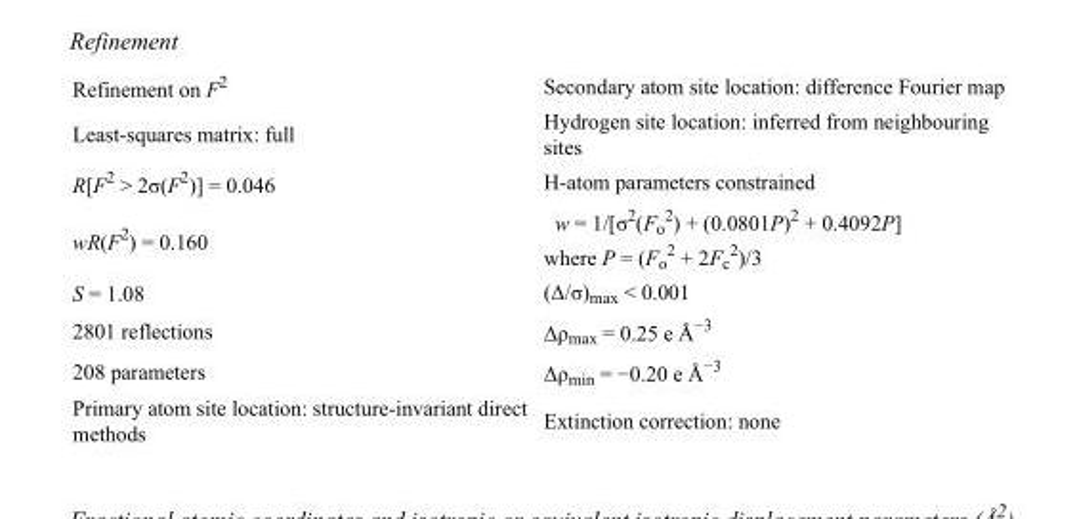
<table><tbody><tr><td>Refinement on F<sup>2</sup></td><td>Secondary atom site location: difference Fourier map</td></tr><tr><td>Least-squares matrix: full</td><td>Hydrogen site location: inferred from neighbouring sites</td></tr><tr><td>R[F<sup>2</sup> &gt; 2σ(F<sup>2</sup>)] = 0.046</td><td>H-atom parameters constrained</td></tr><tr><td>wR(F<sup>2</sup>) = 0.160</td><td>w = 1/[σ<sup>2</sup>(F<sub>o</sub> <sup>2</sup>) + (0.0801P)<sup>2</sup> + 0.4092P] where P = (F<sub>o</sub> <sup>2</sup> + 2F<sub>c</sub> <sup>2</sup>)/3</td></tr><tr><td>S = 1.08</td><td>(Δ/σ)<sub>max</sub> &lt; 0.001</td></tr><tr><td>2801 reflections</td><td>Δρ<sub>max</sub> = 0.25 e Å<sup>−3</sup></td></tr><tr><td>208 parameters</td><td>Δρ<sub>min</sub> = −0.20 e Å<sup>−3</sup></td></tr><tr><td>Primary atom site location: structure-invariant direct methods</td><td>Extinction correction: none</td></tr></tbody></table>